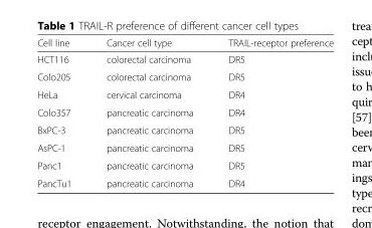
<table><thead><tr><td>Cell line</td><td>Cancer cell type</td><td>TRAIL-receptor preference</td></tr></thead><tbody><tr><td>HCT116</td><td>colorectal carcinoma</td><td>DR5</td></tr><tr><td>Colo205</td><td>colorectal carcinoma</td><td>DR5</td></tr><tr><td>HeLa</td><td>cervical carcinoma</td><td>DR4</td></tr><tr><td>Colo357</td><td>pancreatic carcinoma</td><td>DR4</td></tr><tr><td>BxPC-3</td><td>pancreatic carcinoma</td><td>DR5</td></tr><tr><td>AsPC-1</td><td>pancreatic carcinoma</td><td>DR5</td></tr><tr><td>Panc1</td><td>pancreatic carcinoma</td><td>DR5</td></tr><tr><td>PancTu1</td><td>pancreatic carcinoma</td><td>DR4</td></tr></tbody></table>